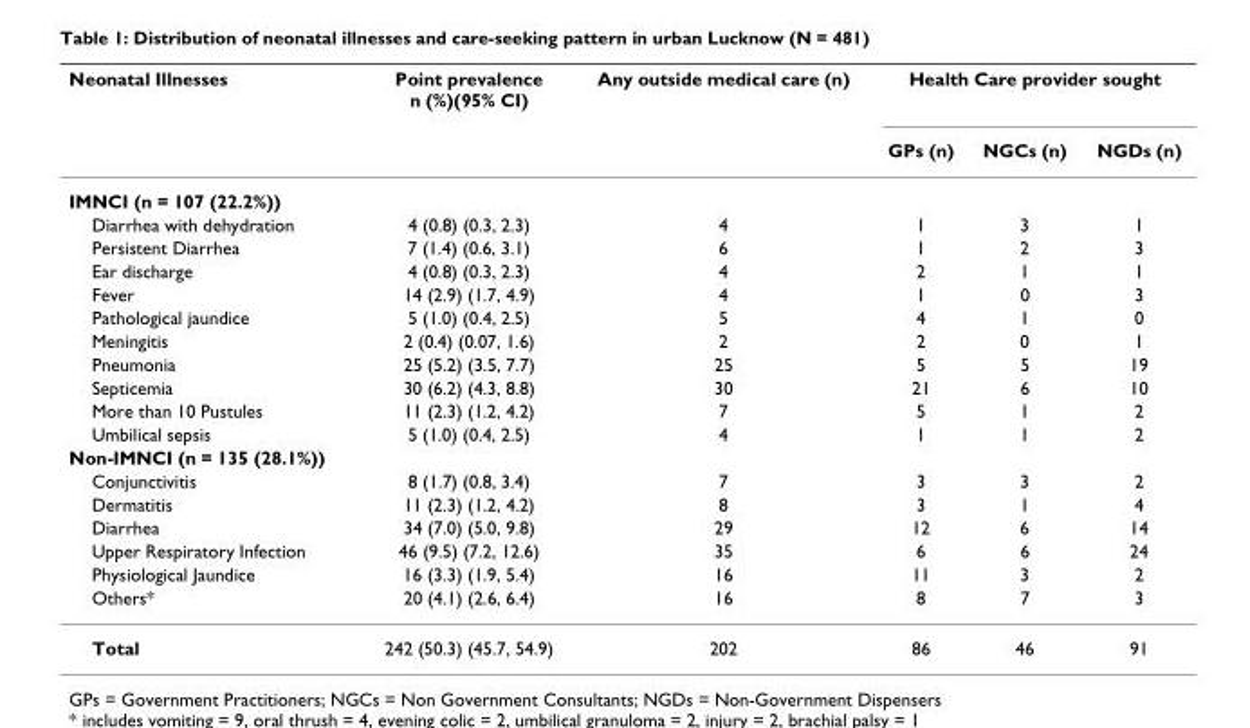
<table><thead><tr><td rowspan="2">Neonatal Illnesses</td><td rowspan="2">Point prevalence n (%)(95% CI)</td><td rowspan="2">Any outside medical care (n)</td><td colspan="3">Health Care provider sought</td></tr><tr><td>GPs (n)</td><td>NGCs (n)</td><td>NGDs (n)</td></tr></thead><tbody><tr><td colspan="6">IMNCI (n = 107 (22.2%))</td></tr><tr><td>Diarrhea with dehydration</td><td>4 (0.8) (0.3, 2.3)</td><td>4</td><td>1</td><td>3</td><td>1</td></tr><tr><td>Persistent Diarrhea</td><td>7 (1.4) (0.6, 3.1)</td><td>6</td><td>1</td><td>2</td><td>3</td></tr><tr><td>Ear discharge</td><td>4 (0.8) (0.3, 2.3)</td><td>4</td><td>2</td><td>1</td><td>1</td></tr><tr><td>Fever</td><td>14 (2.9) (1.7, 4.9)</td><td>4</td><td>1</td><td>0</td><td>3</td></tr><tr><td>Pathological jaundice</td><td>5 (1.0) (0.4, 2.5)</td><td>5</td><td>4</td><td>1</td><td>0</td></tr><tr><td>Meningitis</td><td>2 (0.4) (0.07, 1.6)</td><td>2</td><td>2</td><td>0</td><td>1</td></tr><tr><td>Pneumonia</td><td>25 (5.2) (3.5, 7.7)</td><td>25</td><td>5</td><td>5</td><td>19</td></tr><tr><td>Septicemia</td><td>30 (6.2) (4.3, 8.8)</td><td>30</td><td>21</td><td>6</td><td>10</td></tr><tr><td>More than 10 Pustules</td><td>11 (2.3) (1.2, 4.2)</td><td>7</td><td>5</td><td>1</td><td>2</td></tr><tr><td>Umbilical sepsis</td><td>5 (1.0) (0.4, 2.5)</td><td>4</td><td>1</td><td>1</td><td>2</td></tr><tr><td colspan="6">Non-IMNCI (n = 135 (28.1%))</td></tr><tr><td>Conjunctivitis</td><td>8 (1.7) (0.8, 3.4)</td><td>7</td><td>3</td><td>3</td><td>2</td></tr><tr><td>Dermatitis</td><td>11 (2.3) (1.2, 4.2)</td><td>8</td><td>3</td><td>1</td><td>4</td></tr><tr><td>Diarrhea</td><td>34 (7.0) (5.0, 9.8)</td><td>29</td><td>12</td><td>6</td><td>14</td></tr><tr><td>Upper Respiratory Infection</td><td>46 (9.5) (7.2, 12.6)</td><td>35</td><td>6</td><td>6</td><td>24</td></tr><tr><td>Physiological Jaundice</td><td>16 (3.3) (1.9, 5.4)</td><td>16</td><td>11</td><td>3</td><td>2</td></tr><tr><td>Others*</td><td>20 (4.1) (2.6, 6.4)</td><td>16</td><td>8</td><td>7</td><td>3</td></tr><tr><td>Total</td><td>242 (50.3) (45.7, 54.9)</td><td>202</td><td>86</td><td>46</td><td>91</td></tr></tbody></table>